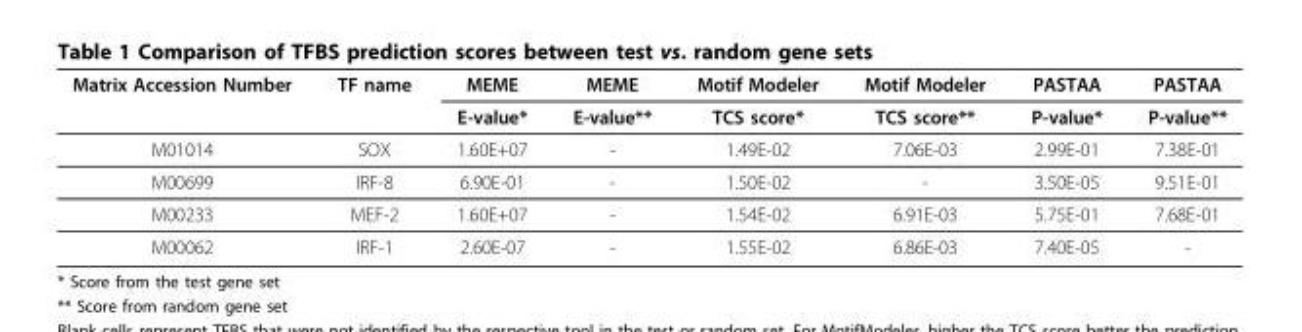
<table><thead><tr><td rowspan="2">Matrix Accession Number</td><td rowspan="2">TF name</td><td rowspan="2">MEME E-value*</td><td rowspan="2">MEME E-value**</td><td rowspan="2">Motif Modeler TCS score*</td><td rowspan="2">Motif Modeler TCS score**</td><td rowspan="2">PASTAA P-value*</td><td rowspan="2">PASTAA P-value**</td></tr><tr></tr></thead><tbody><tr><td>M01014</td><td>SOX</td><td>1.60E+07</td><td>-</td><td>1.49E-02</td><td>7.06E-03</td><td>2.99E-01</td><td>7.38E-01</td></tr><tr><td>M00699</td><td>IRF-8</td><td>6.90E-01</td><td>-</td><td>1.50E-02</td><td>-</td><td>3.50E-05</td><td>9.51E-01</td></tr><tr><td>M00233</td><td>MEF-2</td><td>1.60E+07</td><td>-</td><td>1.54E-02</td><td>6.91E-03</td><td>5.75E-01</td><td>7.68E-01</td></tr><tr><td>M00062</td><td>IRF-1</td><td>2.60E-07</td><td>-</td><td>1.55E-02</td><td>6.86E-03</td><td>7.40E-05</td><td>-</td></tr></tbody></table>